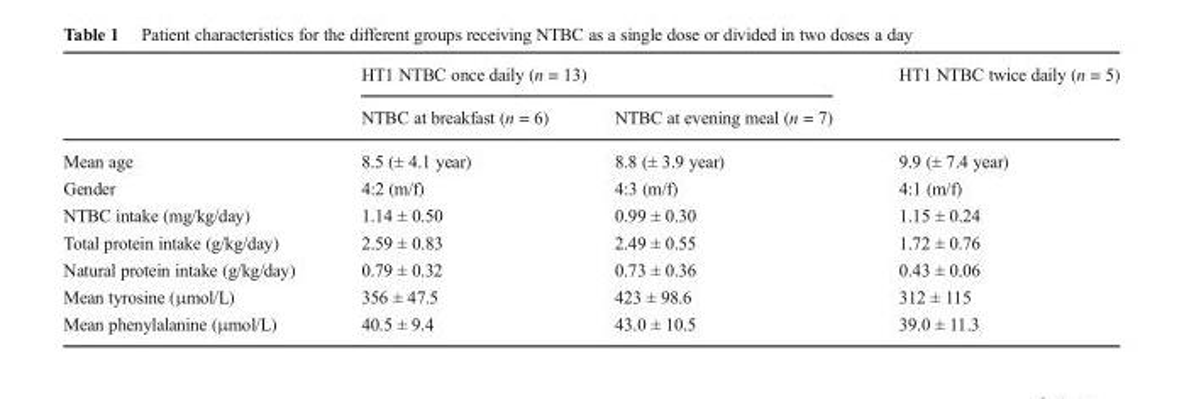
<table><thead><tr><td rowspan="2"></td><td colspan="2">HT1 NTBC once daily (n = 13)</td><td rowspan="2">HT1 NTBC twice daily (n = 5)</td></tr><tr><td>NTBC at breakfast (n = 6)</td><td>NTBC at evening meal (n = 7)</td></tr></thead><tbody><tr><td>Mean age</td><td>8.5 (± 4.1 year)</td><td>8.8 (± 3.9 year)</td><td>9.9 (± 7.4 year)</td></tr><tr><td>Gender</td><td>4:2 (m/f)</td><td>4:3 (m/f)</td><td>4:1 (m/f)</td></tr><tr><td>NTBC intake (mg/kg/day)</td><td>1.14 ± 0.50</td><td>0.99 ± 0.30</td><td>1.15 ± 0.24</td></tr><tr><td>Total protein intake (g/kg/day)</td><td>2.59 ± 0.83</td><td>2.49 ± 0.55</td><td>1.72 ± 0.76</td></tr><tr><td>Natural protein intake (g/kg/day)</td><td>0.79 ± 0.32</td><td>0.73 ± 0.36</td><td>0.43 ± 0.06</td></tr><tr><td>Mean tyrosine (μmol/L)</td><td>356 ± 47.5</td><td>423 ± 98.6</td><td>312 ± 115</td></tr><tr><td>Mean phenylalanine (μmol/L)</td><td>40.5 ± 9.4</td><td>43.0 ± 10.5</td><td>39.0 ± 11.3</td></tr></tbody></table>